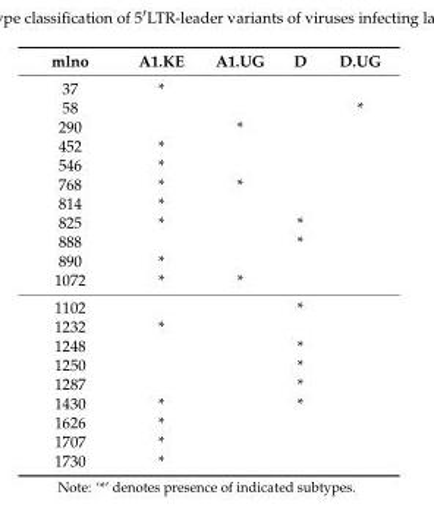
<table><thead><tr><td>mlno</td><td>A1.KE</td><td>A1.UG</td><td>D</td><td>D.UG</td></tr></thead><tbody><tr><td>37</td><td>*</td><td></td><td></td><td></td></tr><tr><td>58</td><td></td><td></td><td></td><td>*</td></tr><tr><td>290</td><td></td><td>*</td><td></td><td></td></tr><tr><td>452</td><td>*</td><td></td><td></td><td></td></tr><tr><td>546</td><td>*</td><td></td><td></td><td></td></tr><tr><td>768</td><td>*</td><td>*</td><td></td><td></td></tr><tr><td>814</td><td>*</td><td></td><td></td><td></td></tr><tr><td>825</td><td>*</td><td></td><td>*</td><td></td></tr><tr><td>888</td><td></td><td></td><td>*</td><td></td></tr><tr><td>890</td><td>*</td><td></td><td></td><td></td></tr><tr><td>1072</td><td>*</td><td>*</td><td></td><td></td></tr><tr><td>1102</td><td></td><td></td><td>*</td><td></td></tr><tr><td>1232</td><td>*</td><td></td><td></td><td></td></tr><tr><td>1248</td><td></td><td></td><td>*</td><td></td></tr><tr><td>1250</td><td></td><td></td><td>*</td><td></td></tr><tr><td>1287</td><td></td><td></td><td>*</td><td></td></tr><tr><td>1430</td><td>*</td><td></td><td>*</td><td></td></tr><tr><td>1626</td><td>*</td><td></td><td></td><td></td></tr><tr><td>1707</td><td>*</td><td></td><td></td><td></td></tr><tr><td>1730</td><td>*</td><td></td><td></td><td></td></tr></tbody></table>